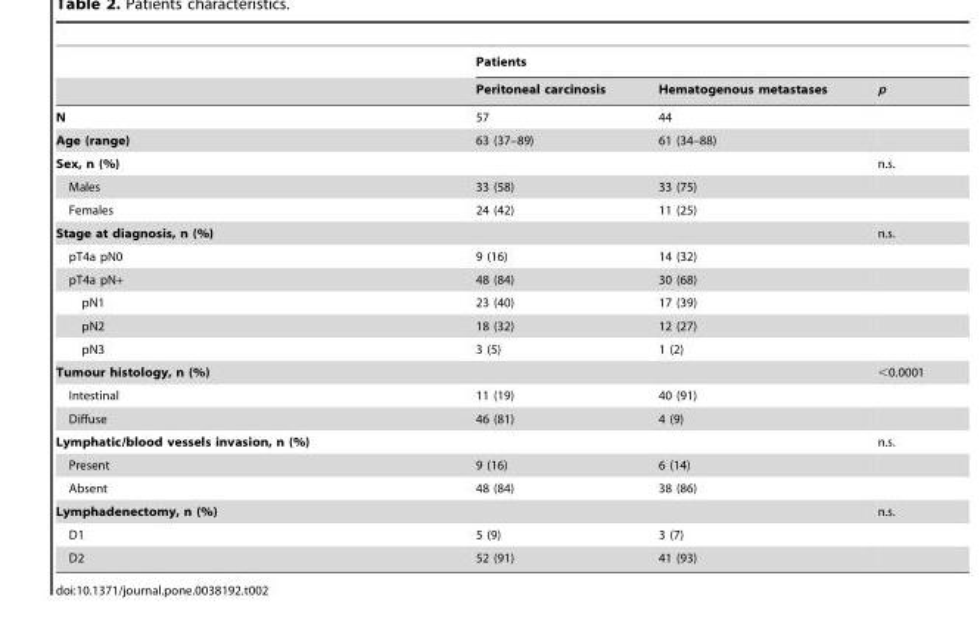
<table><thead><tr><td rowspan="2"></td><td colspan="3">Patients</td></tr><tr><td>Peritoneal carcinosis</td><td>Hematogenous metastases</td><td>p</td></tr></thead><tbody><tr><td>N</td><td>57</td><td>44</td><td></td></tr><tr><td>Age (range)</td><td>63 (37–89)</td><td>61 (34–88)</td><td></td></tr><tr><td>Sex, n (%)</td><td></td><td></td><td>n.s.</td></tr><tr><td>Males</td><td>33 (58)</td><td>33 (75)</td><td></td></tr><tr><td>Females</td><td>24 (42)</td><td>11 (25)</td><td></td></tr><tr><td>Stage at diagnosis, n (%)</td><td></td><td></td><td>n.s.</td></tr><tr><td>pT4a pN0</td><td>9 (16)</td><td>14 (32)</td><td></td></tr><tr><td>pT4a pN+</td><td>48 (84)</td><td>30 (68)</td><td></td></tr><tr><td>pN1</td><td>23 (40)</td><td>17 (39)</td><td></td></tr><tr><td>pN2</td><td>18 (32)</td><td>12 (27)</td><td></td></tr><tr><td>pN3</td><td>3 (5)</td><td>1 (2)</td><td></td></tr><tr><td>Tumour histology, n (%)</td><td></td><td></td><td>&lt;0.0001</td></tr><tr><td>Intestinal</td><td>11 (19)</td><td>40 (91)</td><td></td></tr><tr><td>Diffuse</td><td>46 (81)</td><td>4 (9)</td><td></td></tr><tr><td>Lymphatic/blood vessels invasion, n (%)</td><td></td><td></td><td>n.s.</td></tr><tr><td>Present</td><td>9 (16)</td><td>6 (14)</td><td></td></tr><tr><td>Absent</td><td>48 (84)</td><td>38 (86)</td><td></td></tr><tr><td>Lymphadenectomy, n (%)</td><td></td><td></td><td>n.s.</td></tr><tr><td>D1</td><td>5 (9)</td><td>3 (7)</td><td></td></tr><tr><td>D2</td><td>52 (91)</td><td>41 (93)</td><td></td></tr></tbody></table>